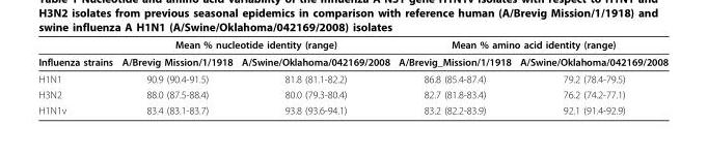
<table><thead><tr><td rowspan="2">Influenza strains</td><td colspan="2">Mean % nucleotide identity (range)</td><td colspan="2">Mean % amino acid identity (range)</td></tr><tr><td>A/Brevig Mission/1/1918</td><td>A/Swine/Oklahoma/042169/2008</td><td>A/Brevig_Mission/1/1918</td><td>A/Swine/Oklahoma/042169/2008</td></tr></thead><tbody><tr><td>H1N1</td><td>90.9 (90.4-91.5)</td><td>81.8 (81.1-82.2)</td><td>86.8 (85.4-87.4)</td><td>79.2 (78.4-79.5)</td></tr><tr><td>H3N2</td><td>88.0 (87.5-88.4)</td><td>80.0 (79.3-80.4)</td><td>82.7 (81.8-83.4)</td><td>76.2 (74.2-77.1)</td></tr><tr><td>H1N1v</td><td>83.4 (83.1-83.7)</td><td>93.8 (93.6-94.1)</td><td>83.2 (82.2-83.9)</td><td>92.1 (91.4-92.9)</td></tr></tbody></table>